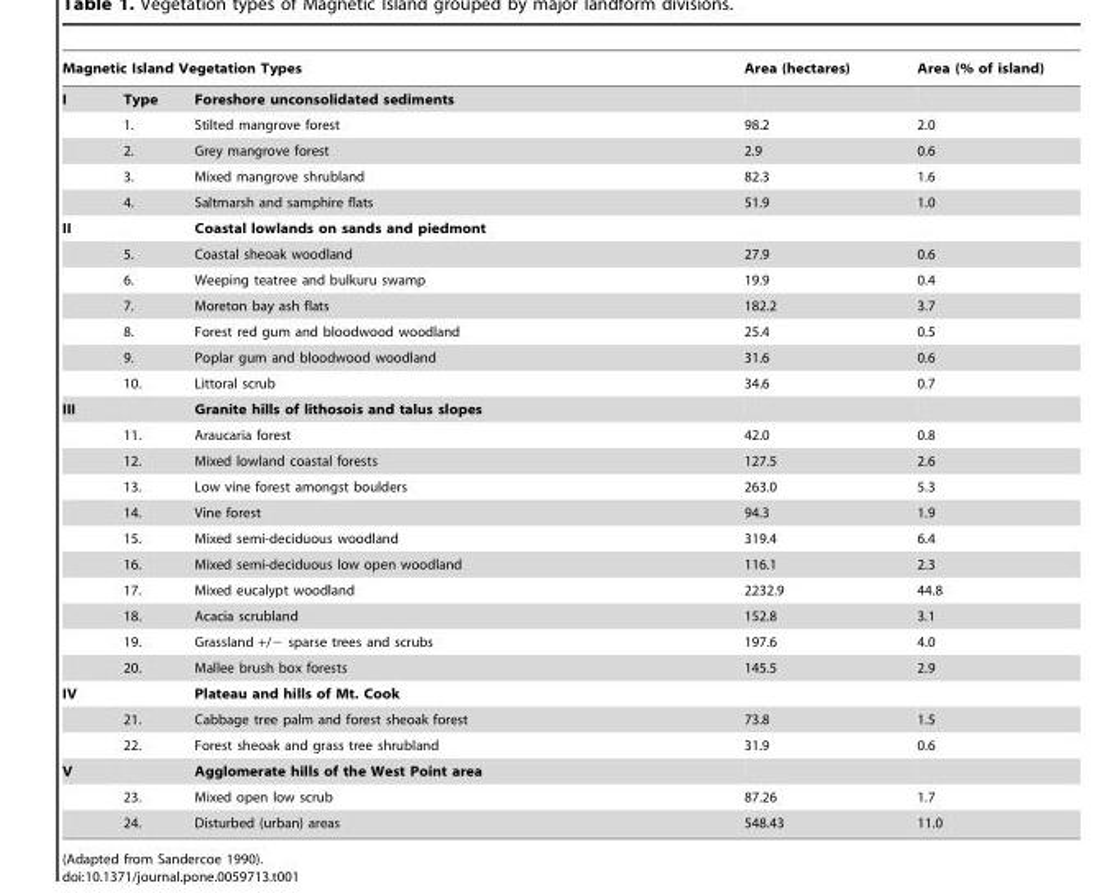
<table><thead><tr><td colspan="3">Magnetic Island Vegetation Types</td><td rowspan="2">Area (hectares)</td><td rowspan="2">Area (% of island)</td></tr><tr><td>I</td><td>Type</td><td>Foreshore unconsolidated sediments</td></tr></thead><tbody><tr><td></td><td>1.</td><td>Stilted mangrove forest</td><td>98.2</td><td>2.0</td></tr><tr><td></td><td>2.</td><td>Grey mangrove forest</td><td>2.9</td><td>0.6</td></tr><tr><td></td><td>3.</td><td>Mixed mangrove shrubland</td><td>82.3</td><td>1.6</td></tr><tr><td></td><td>4.</td><td>Saltmarsh and samphire flats</td><td>51.9</td><td>1.0</td></tr><tr><td rowspan="7">II</td><td></td><td>Coastal lowlands on sands and piedmont</td><td></td><td></td></tr><tr><td>5.</td><td>Coastal sheoak woodland</td><td>27.9</td><td>0.6</td></tr><tr><td>6.</td><td>Weeping teatree and bulkuru swamp</td><td>19.9</td><td>0.4</td></tr><tr><td>7.</td><td>Moreton bay ash flats</td><td>182.2</td><td>3.7</td></tr><tr><td>8.</td><td>Forest red gum and bloodwood woodland</td><td>25.4</td><td>0.5</td></tr><tr><td>9.</td><td>Poplar gum and bloodwood woodland</td><td>31.6</td><td>0.6</td></tr><tr><td>10.</td><td>Littoral scrub</td><td>34.6</td><td>0.7</td></tr><tr><td rowspan="11">III</td><td></td><td>Granite hills of lithosois and talus slopes</td><td></td><td></td></tr><tr><td>11.</td><td>Araucaria forest</td><td>42.0</td><td>0.8</td></tr><tr><td>12.</td><td>Mixed lowland coastal forests</td><td>127.5</td><td>2.6</td></tr><tr><td>13.</td><td>Low vine forest amongst boulders</td><td>263.0</td><td>5.3</td></tr><tr><td>14.</td><td>Vine forest</td><td>94.3</td><td>1.9</td></tr><tr><td>15.</td><td>Mixed semi-deciduous woodland</td><td>319.4</td><td>6.4</td></tr><tr><td>16.</td><td>Mixed semi-deciduous low open woodland</td><td>116.1</td><td>2.3</td></tr><tr><td>17.</td><td>Mixed eucalypt woodland</td><td>2232.9</td><td>44.8</td></tr><tr><td>18.</td><td>Acacia scrubland</td><td>152.8</td><td>3.1</td></tr><tr><td>19.</td><td>Grassland +/− sparse trees and scrubs</td><td>197.6</td><td>4.0</td></tr><tr><td>20.</td><td>Mallee brush box forests</td><td>145.5</td><td>2.9</td></tr><tr><td rowspan="3">IV</td><td></td><td>Plateau and hills of Mt. Cook</td><td></td><td></td></tr><tr><td>21.</td><td>Cabbage tree palm and forest sheoak forest</td><td>73.8</td><td>1.5</td></tr><tr><td>22.</td><td>Forest sheoak and grass tree shrubland</td><td>31.9</td><td>0.6</td></tr><tr><td rowspan="3">V</td><td></td><td>Agglomerate hills of the West Point area</td><td></td><td></td></tr><tr><td>23.</td><td>Mixed open low scrub</td><td>87.26</td><td>1.7</td></tr><tr><td>24.</td><td>Disturbed (urban) areas</td><td>548.43</td><td>11.0</td></tr></tbody></table>